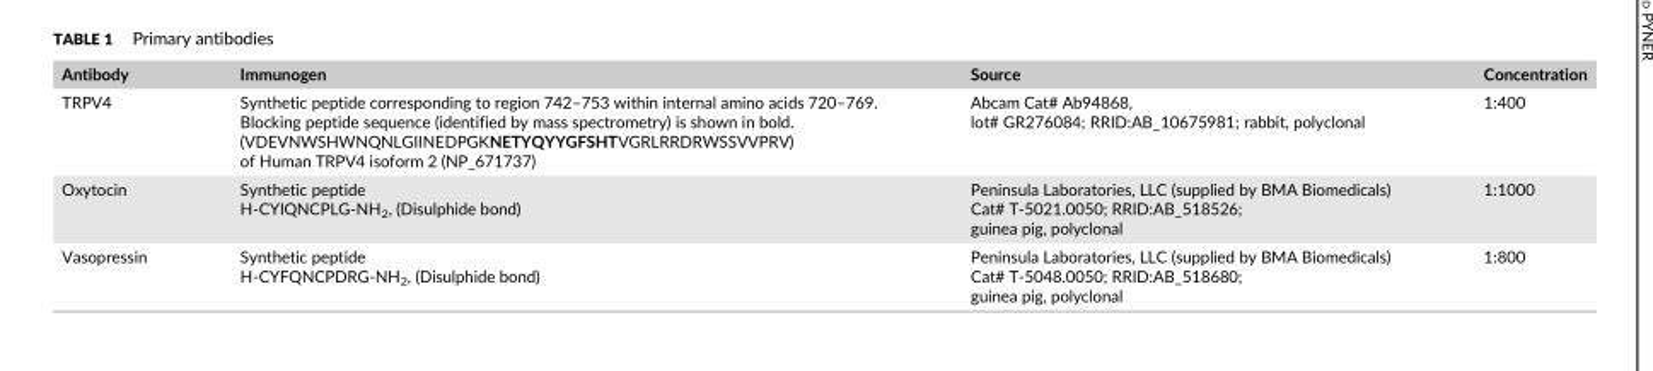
<table><thead><tr><td>Antibody</td><td>Immunogen</td><td>Source</td><td>Concentration</td></tr></thead><tbody><tr><td>TRPV4</td><td>Synthetic peptide corresponding to region 742–753 within internal amino acids 720–769. Blocking peptide sequence (identified by mass spectrometry) is shown in bold. (VDEVNWSHWNQNLGIINEDPGKNETYQYYGFSHTVGRLRRDRWSSVVPRV) of Human TRPV4 isoform 2 (NP_671737)</td><td>Abcam Cat# Ab94868, lot# GR276084; RRID:AB_10675981; rabbit, polyclonal</td><td>1:400</td></tr><tr><td>Oxytocin</td><td>Synthetic peptide H-CYIQNCPLG-NH<sub>2</sub>, (Disulphide bond)</td><td>Peninsula Laboratories, LLC (supplied by BMA Biomedicals) Cat# T-5021.0050; RRID:AB_518526; guinea pig, polyclonal</td><td>1:1000</td></tr><tr><td>Vasopressin</td><td>Synthetic peptide H-CYFQNCPDRG-NH<sub>2</sub>, (Disulphide bond)</td><td>Peninsula Laboratories, LLC (supplied by BMA Biomedicals) Cat# T-5048.0050; RRID:AB_518680; guinea pig, polyclonal</td><td>1:800</td></tr></tbody></table>